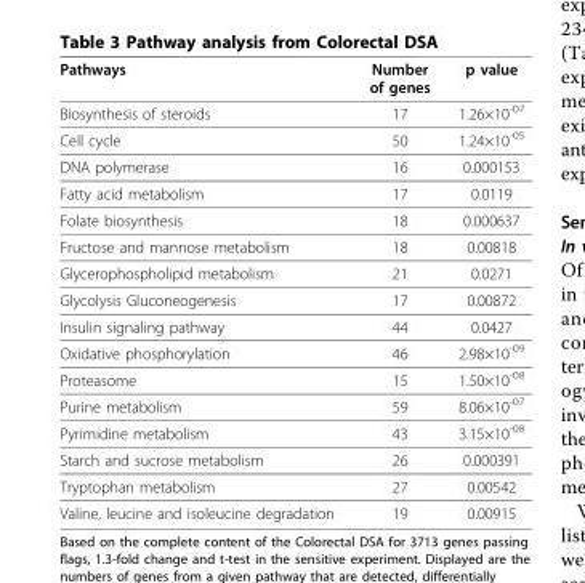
<table><thead><tr><td>Pathways</td><td>Number of genes</td><td>p value</td></tr></thead><tbody><tr><td>Biosynthesis of steroids</td><td>17</td><td>1.26×10<sup>-07</sup></td></tr><tr><td>Cell cycle</td><td>50</td><td>1.24×10<sup>-05</sup></td></tr><tr><td>DNA polymerase</td><td>16</td><td>0.000153</td></tr><tr><td>Fatty acid metabolism</td><td>17</td><td>0.0119</td></tr><tr><td>Folate biosynthesis</td><td>18</td><td>0.000637</td></tr><tr><td>Fructose and mannose metabolism</td><td>18</td><td>0.00818</td></tr><tr><td>Glycerophospholipid metabolism</td><td>21</td><td>0.0271</td></tr><tr><td>Glycolysis Gluconeogenesis</td><td>17</td><td>0.00872</td></tr><tr><td>Insulin signaling pathway</td><td>44</td><td>0.0427</td></tr><tr><td>Oxidative phosphorylation</td><td>46</td><td>2.98×10<sup>-09</sup></td></tr><tr><td>Proteasome</td><td>15</td><td>1.50×10<sup>-08</sup></td></tr><tr><td>Purine metabolism</td><td>59</td><td>8.06×10<sup>-07</sup></td></tr><tr><td>Pyrimidine metabolism</td><td>43</td><td>3.15×10<sup>-08</sup></td></tr><tr><td>Starch and sucrose metabolism</td><td>26</td><td>0.000391</td></tr><tr><td>Tryptophan metabolism</td><td>27</td><td>0.00542</td></tr><tr><td>Valine, leucine and isoleucine degradation</td><td>19</td><td>0.00915</td></tr></tbody></table>